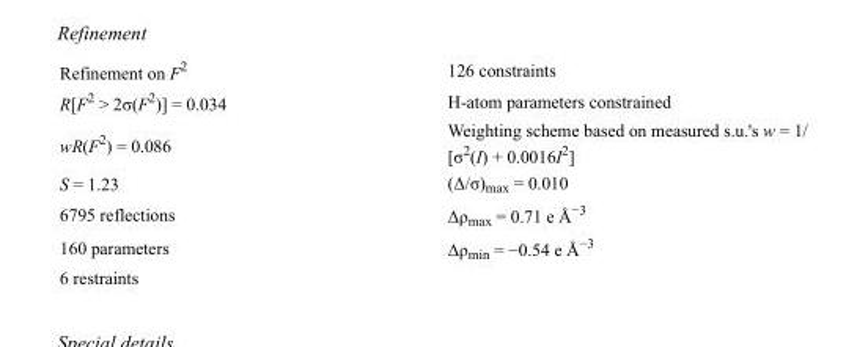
<table><tbody><tr><td>Refinement on F<sup>2</sup></td><td>126 constraints</td></tr><tr><td>R[F<sup>2</sup> &gt; 2σ(F<sup>2</sup>)] = 0.034</td><td>H-atom parameters constrained</td></tr><tr><td>wR(F<sup>2</sup>) = 0.086</td><td>Weighting scheme based on measured s.u.&#x27;s w = 1/ [σ<sup>2</sup>(I) + 0.0016I<sup>2</sup>]</td></tr><tr><td>S = 1.23</td><td>(Δ/σ)<sub>max</sub> = 0.010</td></tr><tr><td>6795 reflections</td><td>Δρ<sub>max</sub> = 0.71 e Å<sup>−3</sup></td></tr><tr><td>160 parameters</td><td>Δρ<sub>min</sub> = −0.54 e Å<sup>−3</sup></td></tr><tr><td>6 restraints</td><td></td></tr></tbody></table>